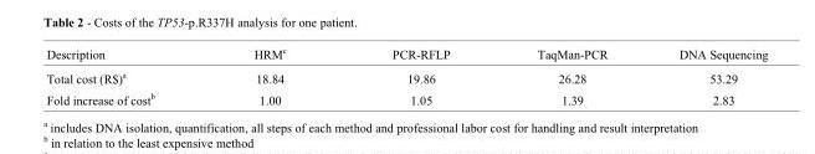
<table><thead><tr><td>Description</td><td>HRM<sup>c</sup></td><td>PCR-RFLP</td><td>TaqMan-PCR</td><td>DNA Sequencing</td></tr></thead><tbody><tr><td>Total cost (R$)<sup>a</sup></td><td>18.84</td><td>19.86</td><td>26.28</td><td>53.29</td></tr><tr><td>Fold increase of cost<sup>b</sup></td><td>1.00</td><td>1.05</td><td>1.39</td><td>2.83</td></tr></tbody></table>